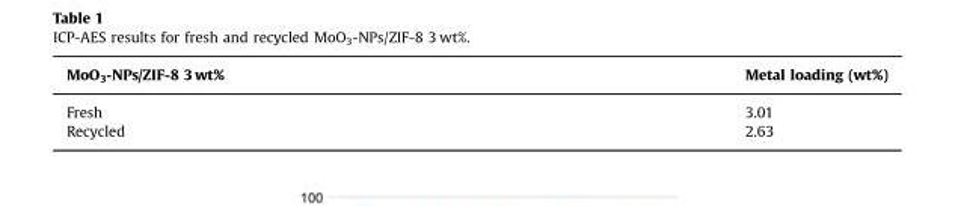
<table><thead><tr><td>MoO<sub>3</sub>-NPs/ZIF-8 3 wt%</td><td>Metal loading (wt%)</td></tr></thead><tbody><tr><td>Fresh</td><td>3.01</td></tr><tr><td>Recycled</td><td>2.63</td></tr></tbody></table>